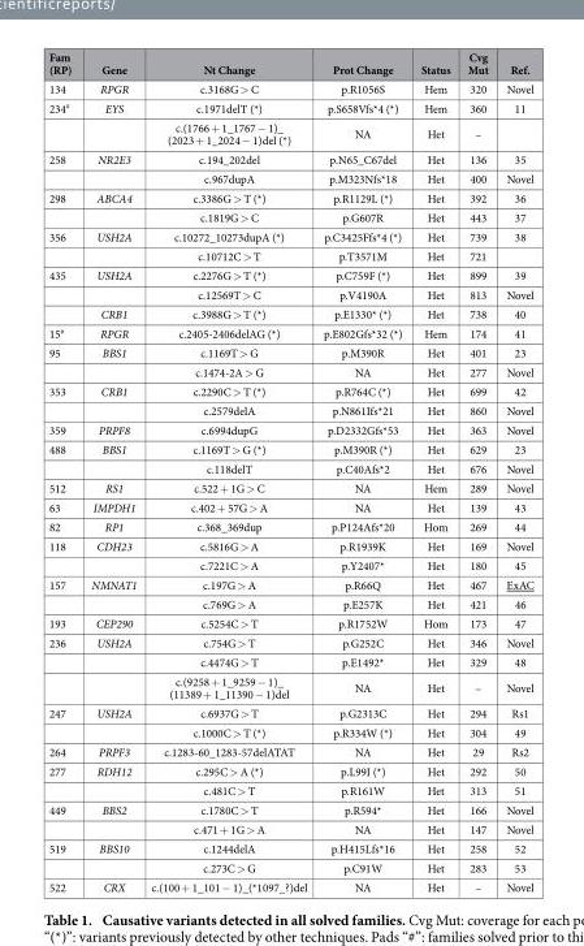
<table><thead><tr><td>Fam (RP)</td><td>Gene</td><td>Nt Change</td><td>Prot Change</td><td>Status</td><td>Cvg Mut</td><td>Ref.</td></tr></thead><tbody><tr><td>134</td><td>RPGR</td><td>c.3168G &gt; C</td><td>p.R1056S</td><td>Hem</td><td>320</td><td>Novel</td></tr><tr><td rowspan="2">234<sup>#</sup></td><td>EYS</td><td>c.1971delT (*)</td><td>p.S658Vfs*4 (*)</td><td>Hem</td><td>360</td><td>11</td></tr><tr><td></td><td>c.(1766 + 1_1767 − 1)_ (2023 + 1_2024 − 1)del (*)</td><td>NA</td><td>Het</td><td>–</td><td></td></tr><tr><td rowspan="2">258</td><td>NR2E3</td><td>c.194_202del</td><td>p.N65_C67del</td><td>Het</td><td>136</td><td>35</td></tr><tr><td></td><td>c.967dupA</td><td>p.M323Nfs*18</td><td>Het</td><td>400</td><td>Novel</td></tr><tr><td rowspan="2">298</td><td>ABCA4</td><td>c.3386G &gt; T (*)</td><td>p.R1129L (*)</td><td>Het</td><td>392</td><td>36</td></tr><tr><td></td><td>c.1819G &gt; C</td><td>p.G607R</td><td>Het</td><td>443</td><td>37</td></tr><tr><td rowspan="2">356</td><td>USH2A</td><td>c.10272_10273dupA (*)</td><td>p.C3425Ffs*4 (*)</td><td>Het</td><td>739</td><td>38</td></tr><tr><td></td><td>c.10712C &gt; T</td><td>p.T3571M</td><td>Het</td><td>721</td><td></td></tr><tr><td rowspan="3">435</td><td>USH2A</td><td>c.2276G &gt; T (*)</td><td>p.C759F (*)</td><td>Het</td><td>899</td><td>39</td></tr><tr><td></td><td>c.12569T &gt; C</td><td>p.V4190A</td><td>Het</td><td>813</td><td>Novel</td></tr><tr><td>CRB1</td><td>c.3988G &gt; T (*)</td><td>p.E1330* (*)</td><td>Het</td><td>738</td><td>40</td></tr><tr><td>15<sup>#</sup></td><td>RPGR</td><td>c.2405-2406delAG (*)</td><td>p.E802Gfs*32 (*)</td><td>Hem</td><td>174</td><td>41</td></tr><tr><td rowspan="2">95</td><td>BBS1</td><td>c.1169T &gt; G</td><td>p.M390R</td><td>Het</td><td>401</td><td>23</td></tr><tr><td></td><td>c.1474-2A &gt; G</td><td>NA</td><td>Het</td><td>277</td><td>Novel</td></tr><tr><td rowspan="2">353</td><td>CRB1</td><td>c.2290C &gt; T (*)</td><td>p.R764C (*)</td><td>Het</td><td>699</td><td>42</td></tr><tr><td></td><td>c.2579delA</td><td>p.N861Ifs*21</td><td>Het</td><td>860</td><td>Novel</td></tr><tr><td>359</td><td>PRPF8</td><td>c.6994dupG</td><td>p.D2332Gfs*53</td><td>Het</td><td>363</td><td>Novel</td></tr><tr><td rowspan="2">488</td><td>BBS1</td><td>c.1169T &gt; G (*)</td><td>p.M390R (*)</td><td>Het</td><td>629</td><td>23</td></tr><tr><td></td><td>c.118delT</td><td>p.C40Afs*2</td><td>Het</td><td>676</td><td>Novel</td></tr><tr><td>512</td><td>RS1</td><td>c.522 + 1G &gt; C</td><td>NA</td><td>Hem</td><td>289</td><td>Novel</td></tr><tr><td>63</td><td>IMPDH1</td><td>c.402 + 57G &gt; A</td><td>NA</td><td>Het</td><td>139</td><td>43</td></tr><tr><td>82</td><td>RP1</td><td>c.368_369dup</td><td>p.P124Afs*20</td><td>Hom</td><td>269</td><td>44</td></tr><tr><td rowspan="2">118</td><td>CDH23</td><td>c.5816G &gt; A</td><td>p.R1939K</td><td>Het</td><td>169</td><td>Novel</td></tr><tr><td></td><td>c.7221C &gt; A</td><td>p.Y2407*</td><td>Het</td><td>180</td><td>45</td></tr><tr><td rowspan="2">157</td><td>NMNAT1</td><td>c.197G &gt; A</td><td>p.R66Q</td><td>Het</td><td>467</td><td>ExAC</td></tr><tr><td></td><td>c.769G &gt; A</td><td>p.E257K</td><td>Het</td><td>421</td><td>46</td></tr><tr><td>193</td><td>CEP290</td><td>c.5254C &gt; T</td><td>p.R1752W</td><td>Hom</td><td>173</td><td>47</td></tr><tr><td rowspan="3">236</td><td>USH2A</td><td>c.754G &gt; T</td><td>p.G252C</td><td>Het</td><td>346</td><td>Novel</td></tr><tr><td></td><td>c.4474G &gt; T</td><td>p.E1492*</td><td>Het</td><td>329</td><td>48</td></tr><tr><td></td><td>c.(9258 + 1_9259 − 1)_ (11389 + 1_11390 − 1)del</td><td>NA</td><td>Het</td><td>–</td><td>Novel</td></tr><tr><td rowspan="2">247</td><td>USH2A</td><td>c.6937G &gt; T</td><td>p.G2313C</td><td>Het</td><td>294</td><td>Rs1</td></tr><tr><td></td><td>c.1000C &gt; T (*)</td><td>p.R334W (*)</td><td>Het</td><td>304</td><td>49</td></tr><tr><td>264</td><td>PRPF3</td><td>c.1283-60_1283-57delATAT</td><td>NA</td><td>Het</td><td>29</td><td>Rs2</td></tr><tr><td rowspan="2">277</td><td>RDH12</td><td>c.295C &gt; A (*)</td><td>p.L99I (*)</td><td>Het</td><td>292</td><td>50</td></tr><tr><td></td><td>c.481C &gt; T</td><td>p.R161W</td><td>Het</td><td>313</td><td>51</td></tr><tr><td rowspan="2">449</td><td>BBS2</td><td>c.1780C &gt; T</td><td>p.R594*</td><td>Het</td><td>166</td><td>Novel</td></tr><tr><td></td><td>c.471 + 1G &gt; A</td><td>NA</td><td>Het</td><td>147</td><td>Novel</td></tr><tr><td rowspan="2">519</td><td>BBS10</td><td>c.1244delA</td><td>p.H415Lfs*16</td><td>Het</td><td>258</td><td>52</td></tr><tr><td></td><td>c.273C &gt; G</td><td>p.C91W</td><td>Het</td><td>283</td><td>53</td></tr><tr><td>522</td><td>CRX</td><td>c.(100 + 1_101 − 1)_(*1097_?)del</td><td>NA</td><td>Het</td><td>–</td><td>Novel</td></tr></tbody></table>